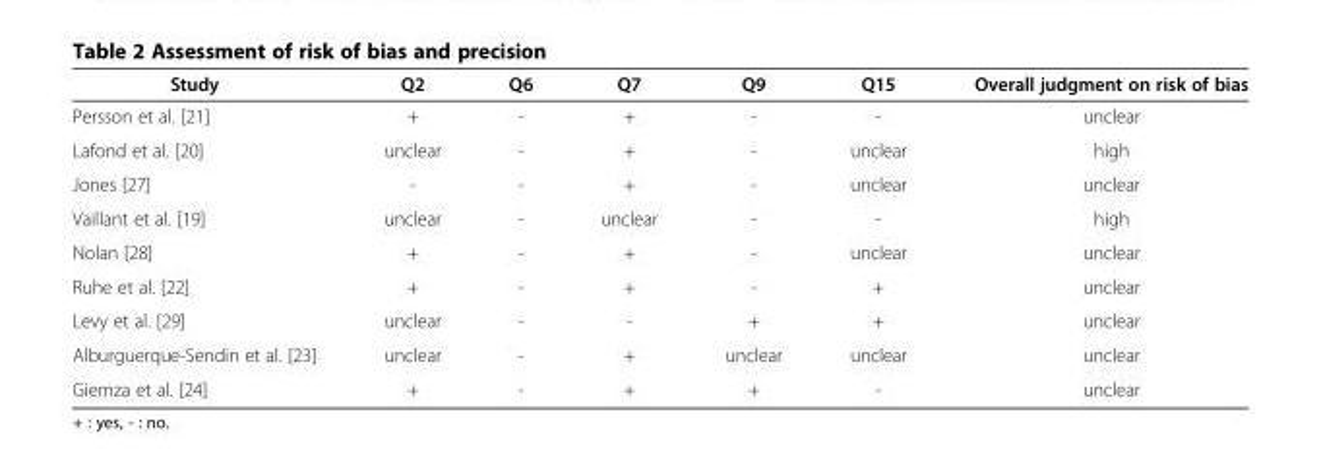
<table><thead><tr><td>Study</td><td>Q2</td><td>Q6</td><td>Q7</td><td>Q9</td><td>Q15</td><td>Overall judgment on risk of bias</td></tr></thead><tbody><tr><td>Persson et al. [21]</td><td>+</td><td>-</td><td>+</td><td>-</td><td>-</td><td>unclear</td></tr><tr><td>Lafond et al. [20]</td><td>unclear</td><td>-</td><td>+</td><td>-</td><td>unclear</td><td>high</td></tr><tr><td>Jones [27]</td><td>-</td><td>-</td><td>+</td><td>-</td><td>unclear</td><td>unclear</td></tr><tr><td>Vaillant et al. [19]</td><td>unclear</td><td>-</td><td>unclear</td><td>-</td><td>-</td><td>high</td></tr><tr><td>Nolan [28]</td><td>+</td><td>-</td><td>+</td><td>-</td><td>unclear</td><td>unclear</td></tr><tr><td>Ruhe et al. [22]</td><td>+</td><td>-</td><td>+</td><td>-</td><td>+</td><td>unclear</td></tr><tr><td>Levy et al. [29]</td><td>unclear</td><td>-</td><td>-</td><td>+</td><td>+</td><td>unclear</td></tr><tr><td>Alburguerque-Sendin et al. [23]</td><td>unclear</td><td>-</td><td>+</td><td>unclear</td><td>unclear</td><td>unclear</td></tr><tr><td>Giemza et al. [24]</td><td>+</td><td>-</td><td>+</td><td>+</td><td>-</td><td>unclear</td></tr></tbody></table>